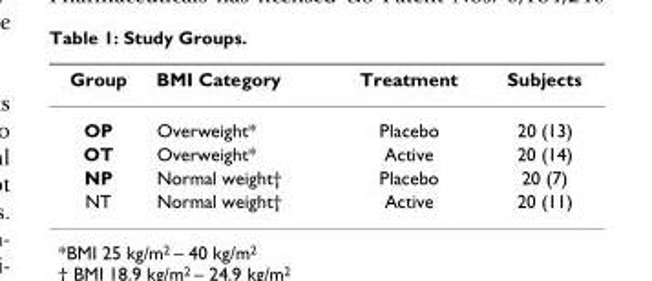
<table><thead><tr><td>Group</td><td>BMI Category</td><td>Treatment</td><td>Subjects</td></tr></thead><tbody><tr><td>OP</td><td>Overweight*</td><td>Placebo</td><td>20 (13)</td></tr><tr><td>OT</td><td>Overweight*</td><td>Active</td><td>20 (14)</td></tr><tr><td>NP</td><td>Normal weight†</td><td>Placebo</td><td>20 (7)</td></tr><tr><td>NT</td><td>Normal weight†</td><td>Active</td><td>20 (11)</td></tr></tbody></table>